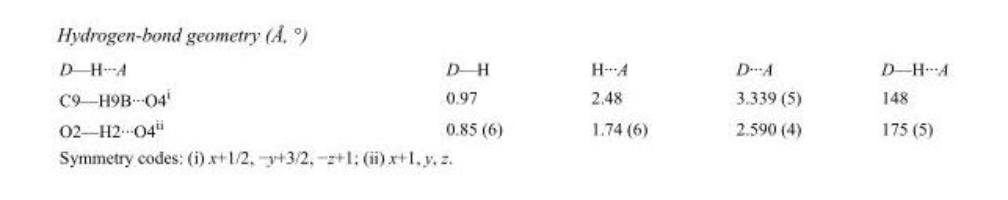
<table><tbody><tr><td>D—H···A</td><td>D—H</td><td>H···A</td><td>D···A</td><td>D—H···A</td></tr><tr><td>C9—H9B···O4<sup>i</sup></td><td>0.97</td><td>2.48</td><td>3.339 (5)</td><td>148</td></tr><tr><td>O2—H2···O4<sup>ii</sup></td><td>0.85 (6)</td><td>1.74 (6)</td><td>2.590 (4)</td><td>175 (5)</td></tr></tbody></table>